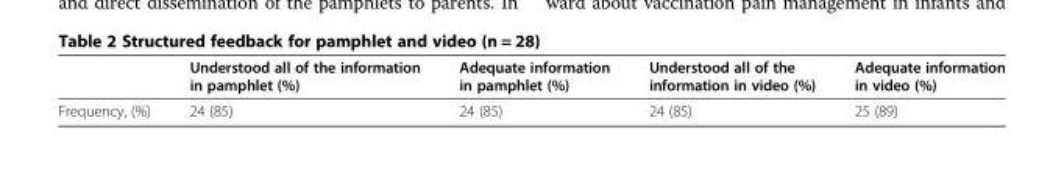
<table><thead><tr><td></td><td>Understood all of the information in pamphlet (%)</td><td>Adequate information in pamphlet (%)</td><td>Understood all of the information in video (%)</td><td>Adequate information in video (%)</td></tr></thead><tbody><tr><td>Frequency, (%)</td><td>24 (85)</td><td>24 (85)</td><td>24 (85)</td><td>25 (89)</td></tr></tbody></table>